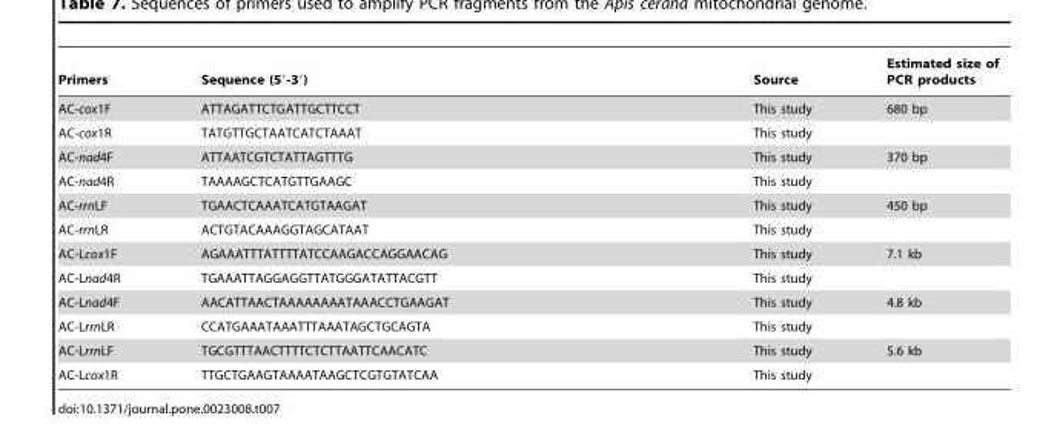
<table><thead><tr><td>Primers</td><td>Sequence (5′-3′)</td><td>Source</td><td>Estimated size of PCR products</td></tr></thead><tbody><tr><td>AC-cox1F</td><td>ATTAGATTCTGATTGCTTCCT</td><td>This study</td><td>680 bp</td></tr><tr><td>AC-cox1R</td><td>TATGTTGCTAATCATCTAAAT</td><td>This study</td><td></td></tr><tr><td>AC-nad4F</td><td>ATTAATCGTCTATTAGTTTG</td><td>This study</td><td>370 bp</td></tr><tr><td>AC-nad4R</td><td>TAAAAGCTCATGTTGAAGC</td><td>This study</td><td></td></tr><tr><td>AC-rrnLF</td><td>TGAACTCAAATCATGTAAGAT</td><td>This study</td><td>450 bp</td></tr><tr><td>AC-rrnLR</td><td>ACTGTACAAAGGTAGCATAAT</td><td>This study</td><td></td></tr><tr><td>AC-Lcox1F</td><td>AGAAATTTATTTTATCCAAGACCAGGAACAG</td><td>This study</td><td>7.1 kb</td></tr><tr><td>AC-Lnad4R</td><td>TGAAATTAGGAGGTTATGGGATATTACGTT</td><td>This study</td><td></td></tr><tr><td>AC-Lnad4F</td><td>AACATTAACTAAAAAAAATAAACCTGAAGAT</td><td>This study</td><td>4.8 kb</td></tr><tr><td>AC-LrrnLR</td><td>CCATGAAATAAATTTAAATAGCTGCAGTA</td><td>This study</td><td></td></tr><tr><td>AC-LrrnLF</td><td>TGCGTTTAACTTTTCTCTTAATTCAACATC</td><td>This study</td><td>5.6 kb</td></tr><tr><td>AC-Lcox1R</td><td>TTGCTGAAGTAAAATAAGCTCGTGTATCAA</td><td>This study</td><td></td></tr></tbody></table>